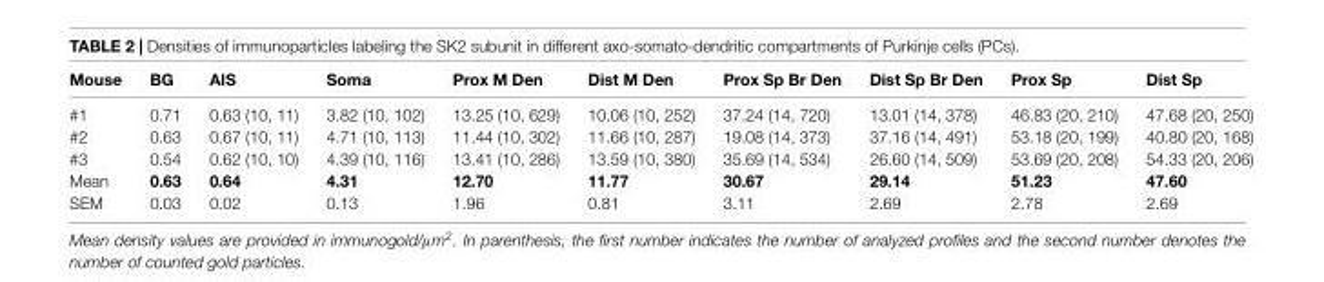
<table><thead><tr><td>Mouse</td><td>BG</td><td>AIS</td><td>Soma</td><td>Prox M Den</td><td>Dist M Den</td><td>Prox Sp Br Den</td><td>Dist Sp Br Den</td><td>Prox Sp</td><td>Dist Sp</td></tr></thead><tbody><tr><td>#1</td><td>0.71</td><td>0.63 (10, 11)</td><td>3.82 (10, 102)</td><td>13.25 (10, 629)</td><td>10.06 (10, 252)</td><td>37.24 (14, 720)</td><td>13.01 (14, 378)</td><td>46.83 (20, 210)</td><td>47.68 (20, 250)</td></tr><tr><td>#2</td><td>0.63</td><td>0.67 (10, 11)</td><td>4.71 (10, 113)</td><td>11.44 (10, 302)</td><td>11.66 (10, 287)</td><td>19.08 (14, 373)</td><td>37.16 (14, 491)</td><td>53.18 (20, 199)</td><td>40.80 (20, 168)</td></tr><tr><td>#3</td><td>0.54</td><td>0.62 (10, 10)</td><td>4.39 (10, 116)</td><td>13.41 (10, 286)</td><td>13.59 (10, 380)</td><td>35.69 (14, 534)</td><td>26.60 (14, 509)</td><td>53.69 (20, 208)</td><td>54.33 (20, 206)</td></tr><tr><td>Mean</td><td>0.63</td><td>0.64</td><td>4.31</td><td>12.70</td><td>11.77</td><td>30.67</td><td>29.14</td><td>51.23</td><td>47.60</td></tr><tr><td>SEM</td><td>0.03</td><td>0.02</td><td>0.13</td><td>1.96</td><td>0.81</td><td>3.11</td><td>2.69</td><td>2.78</td><td>2.69</td></tr></tbody></table>